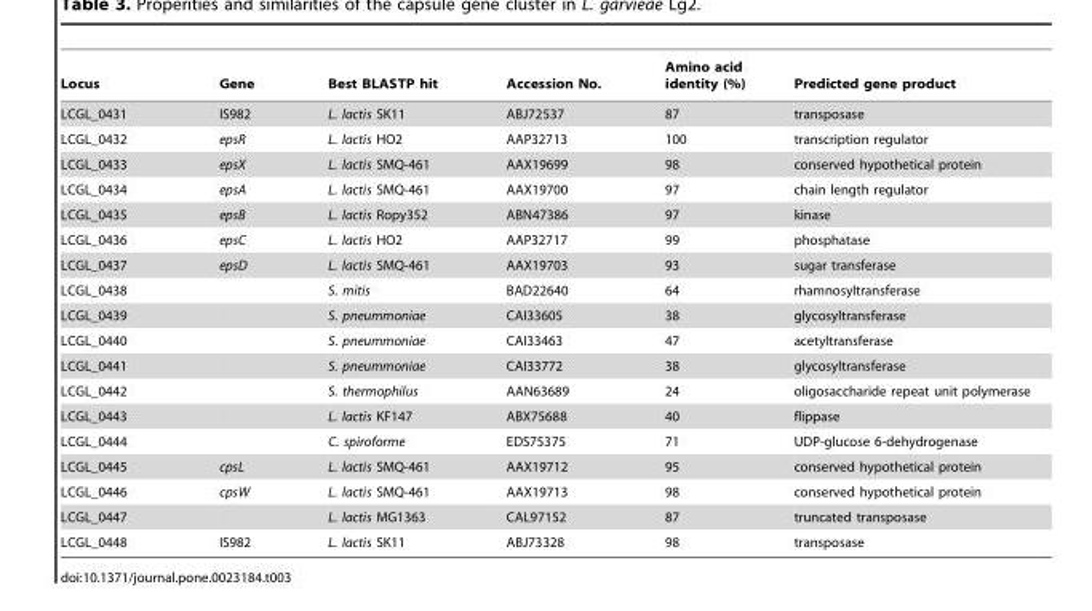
<table><thead><tr><td>Locus</td><td>Gene</td><td>Best BLASTP hit</td><td>Accession No.</td><td>Amino acid identity (%)</td><td>Predicted gene product</td></tr></thead><tbody><tr><td>LCGL_0431</td><td>IS982</td><td>L. lactis SK11</td><td>ABJ72537</td><td>87</td><td>transposase</td></tr><tr><td>LCGL_0432</td><td>epsR</td><td>L. lactis HO2</td><td>AAP32713</td><td>100</td><td>transcription regulator</td></tr><tr><td>LCGL_0433</td><td>epsX</td><td>L. lactis SMQ-461</td><td>AAX19699</td><td>98</td><td>conserved hypothetical protein</td></tr><tr><td>LCGL_0434</td><td>epsA</td><td>L. lactis SMQ-461</td><td>AAX19700</td><td>97</td><td>chain length regulator</td></tr><tr><td>LCGL_0435</td><td>epsB</td><td>L. lactis Ropy352</td><td>ABN47386</td><td>97</td><td>kinase</td></tr><tr><td>LCGL_0436</td><td>epsC</td><td>L. lactis HO2</td><td>AAP32717</td><td>99</td><td>phosphatase</td></tr><tr><td>LCGL_0437</td><td>epsD</td><td>L. lactis SMQ-461</td><td>AAX19703</td><td>93</td><td>sugar transferase</td></tr><tr><td>LCGL_0438</td><td></td><td>S. mitis</td><td>BAD22640</td><td>64</td><td>rhamnosyltransferase</td></tr><tr><td>LCGL_0439</td><td></td><td>S. pneummoniae</td><td>CAI33605</td><td>38</td><td>glycosyltransferase</td></tr><tr><td>LCGL_0440</td><td></td><td>S. pneummoniae</td><td>CAI33463</td><td>47</td><td>acetyltransferase</td></tr><tr><td>LCGL_0441</td><td></td><td>S. pneummoniae</td><td>CAI33772</td><td>38</td><td>glycosyltransferase</td></tr><tr><td>LCGL_0442</td><td></td><td>S. thermophilus</td><td>AAN63689</td><td>24</td><td>oligosaccharide repeat unit polymerase</td></tr><tr><td>LCGL_0443</td><td></td><td>L. lactis KF147</td><td>ABX75688</td><td>40</td><td>flippase</td></tr><tr><td>LCGL_0444</td><td></td><td>C. spiroforme</td><td>EDS75375</td><td>71</td><td>UDP-glucose 6-dehydrogenase</td></tr><tr><td>LCGL_0445</td><td>cpsL</td><td>L. lactis SMQ-461</td><td>AAX19712</td><td>95</td><td>conserved hypothetical protein</td></tr><tr><td>LCGL_0446</td><td>cpsW</td><td>L. lactis SMQ-461</td><td>AAX19713</td><td>98</td><td>conserved hypothetical protein</td></tr><tr><td>LCGL_0447</td><td></td><td>L. lactis MG1363</td><td>CAL97152</td><td>87</td><td>truncated transposase</td></tr><tr><td>LCGL_0448</td><td>IS982</td><td>L. lactis SK11</td><td>ABJ73328</td><td>98</td><td>transposase</td></tr></tbody></table>